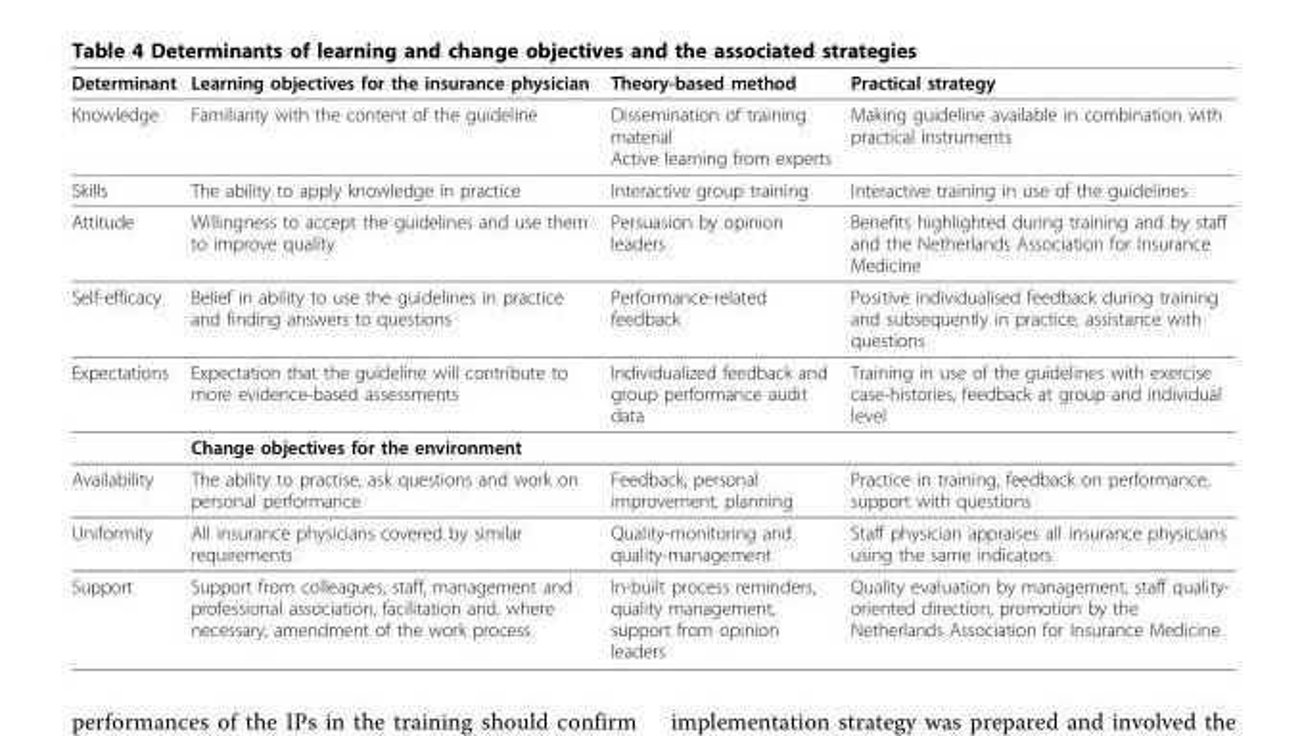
<table><thead><tr><td>Determinant</td><td>Learning objectives for the insurance physician</td><td>Theory-based method</td><td>Practical strategy</td></tr></thead><tbody><tr><td>Knowledge</td><td>Familiarity with the content of the guideline</td><td>Dissemination of training material Active learning from experts</td><td>Making guideline available in combination with practical instruments</td></tr><tr><td>Skills</td><td>The ability to apply knowledge in practice</td><td>Interactive group training</td><td>Interactive training in use of the guidelines</td></tr><tr><td>Attitude</td><td>Willingness to accept the guidelines and use them to improve quality</td><td>Persuasion by opinion leaders</td><td>Benefits highlighted during training and by staff and the Netherlands Association for Insurance Medicine</td></tr><tr><td>Self-efficacy</td><td>Belief in ability to use the guidelines in practice and finding answers to questions</td><td>Performance-related feedback</td><td>Positive individualised feedback during training and subsequently in practice, assistance with questions</td></tr><tr><td rowspan="2">Expectations</td><td>Expectation that the guideline will contribute to more evidence-based assessments</td><td>Individualized feedback and group performance audit data</td><td>Training in use of the guidelines with exercise case-histories, feedback at group and individual level</td></tr><tr><td>Change objectives for the environment</td><td></td><td></td></tr><tr><td>Availability</td><td>The ability to practise, ask questions and work on personal performance</td><td>Feedback, personal improvement, planning</td><td>Practice in training, feedback on performance, support with questions</td></tr><tr><td>Uniformity</td><td>All insurance physicians covered by similar requirements</td><td>Quality-monitoring and quality-management</td><td>Staff physician appraises all insurance physicians using the same indicators</td></tr><tr><td>Support</td><td>Support from colleagues, staff, management and professional association, facilitation and, where necessary, amendment of the work process</td><td>In-built process reminders, quality management, support from opinion leaders</td><td>Quality evaluation by management, staff quality- oriented direction, promotion by the Netherlands Association for Insurance Medicine</td></tr></tbody></table>